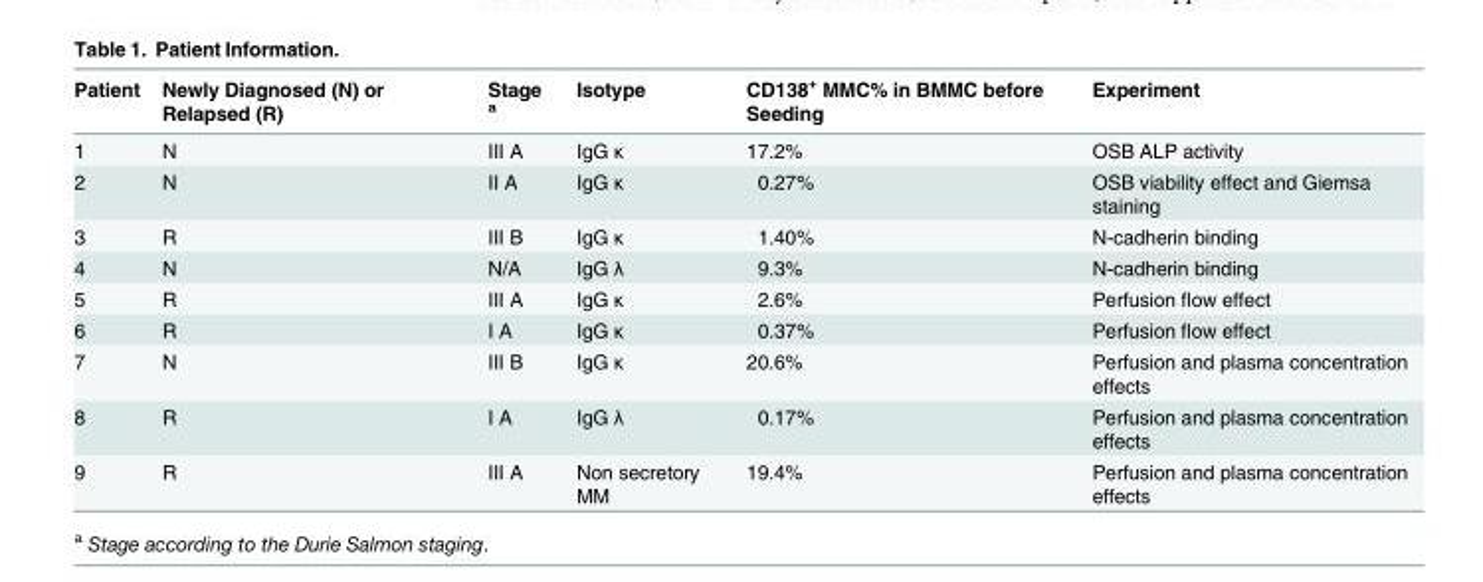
<table><thead><tr><td>Patient</td><td>Newly Diagnosed (N) or Relapsed (R)</td><td>Stage <sup>a</sup></td><td>Isotype</td><td>CD138<sup>+</sup> MMC% in BMMC before Seeding</td><td>Experiment</td></tr></thead><tbody><tr><td>1</td><td>N</td><td>III A</td><td>IgG κ</td><td>17.2%</td><td>OSB ALP activity</td></tr><tr><td>2</td><td>N</td><td>II A</td><td>IgG κ</td><td>0.27%</td><td>OSB viability effect and Giemsa staining</td></tr><tr><td>3</td><td>R</td><td>III B</td><td>IgG κ</td><td>1.40%</td><td>N-cadherin binding</td></tr><tr><td>4</td><td>N</td><td>N/A</td><td>IgG λ</td><td>9.3%</td><td>N-cadherin binding</td></tr><tr><td>5</td><td>R</td><td>III A</td><td>IgG κ</td><td>2.6%</td><td>Perfusion flow effect</td></tr><tr><td>6</td><td>R</td><td>I A</td><td>IgG κ</td><td>0.37%</td><td>Perfusion flow effect</td></tr><tr><td>7</td><td>N</td><td>III B</td><td>IgG κ</td><td>20.6%</td><td>Perfusion and plasma concentration effects</td></tr><tr><td>8</td><td>R</td><td>I A</td><td>IgG λ</td><td>0.17%</td><td>Perfusion and plasma concentration effects</td></tr><tr><td>9</td><td>R</td><td>III A</td><td>Non secretory MM</td><td>19.4%</td><td>Perfusion and plasma concentration effects</td></tr></tbody></table>